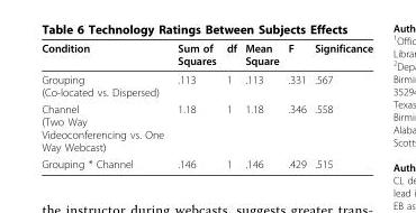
<table><thead><tr><td>Condition</td><td>Sum of Squares</td><td>df</td><td>Mean Square</td><td>F</td><td>Significance</td></tr></thead><tbody><tr><td>Grouping (Co-located vs. Dispersed)</td><td>.113</td><td>1</td><td>.113</td><td>.331</td><td>.567</td></tr><tr><td>Channel (Two Way Videoconferencing vs. One Way Webcast)</td><td>1.18</td><td>1</td><td>1.18</td><td>.346</td><td>.558</td></tr><tr><td>Grouping * Channel</td><td>.146</td><td>1</td><td>.146</td><td>.429</td><td>.515</td></tr></tbody></table>